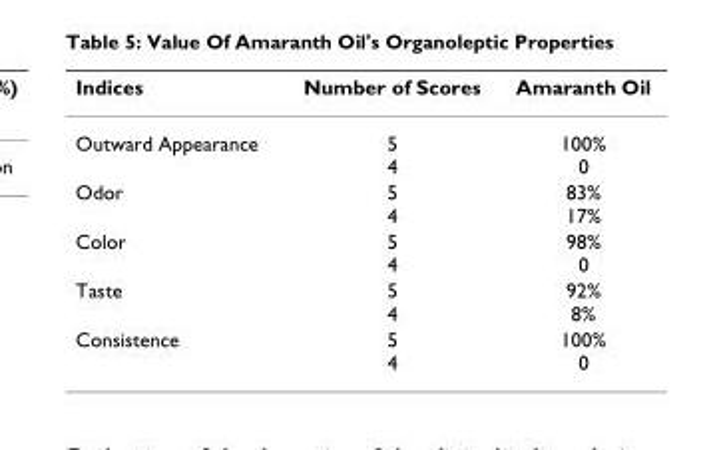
<table><thead><tr><td>Indices</td><td>Number of Scores</td><td>Amaranth Oil</td></tr></thead><tbody><tr><td>Outward Appearance</td><td>5 4</td><td>100% 0</td></tr><tr><td>Odor</td><td>5 4</td><td>83% 17%</td></tr><tr><td>Color</td><td>5 4</td><td>98% 0</td></tr><tr><td>Taste</td><td>5 4</td><td>92% 8%</td></tr><tr><td>Consistence</td><td>5 4</td><td>100% 0</td></tr></tbody></table>